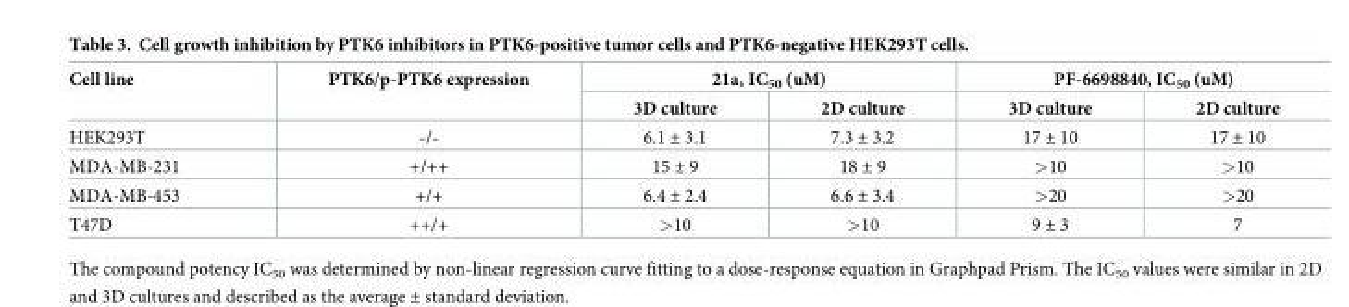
<table><thead><tr><td rowspan="2">Cell line</td><td rowspan="2">PTK6/p-PTK6 expression</td><td colspan="2">21a, IC<sub>50</sub> (uM)</td><td colspan="2">PF-6698840, IC<sub>50</sub> (uM)</td></tr><tr><td>3D culture</td><td>2D culture</td><td>3D culture</td><td>2D culture</td></tr></thead><tbody><tr><td>HEK293T</td><td>-/-</td><td>6.1 ± 3.1</td><td>7.3 ± 3.2</td><td>17 ± 10</td><td>17 ± 10</td></tr><tr><td>MDA-MB-231</td><td>+/++</td><td>15 ± 9</td><td>18 ± 9</td><td>&gt;10</td><td>&gt;10</td></tr><tr><td>MDA-MB-453</td><td>+/+</td><td>6.4 ± 2.4</td><td>6.6 ± 3.4</td><td>&gt;20</td><td>&gt;20</td></tr><tr><td>T47D</td><td>++/+</td><td>&gt;10</td><td>&gt;10</td><td>9 ± 3</td><td>7</td></tr></tbody></table>